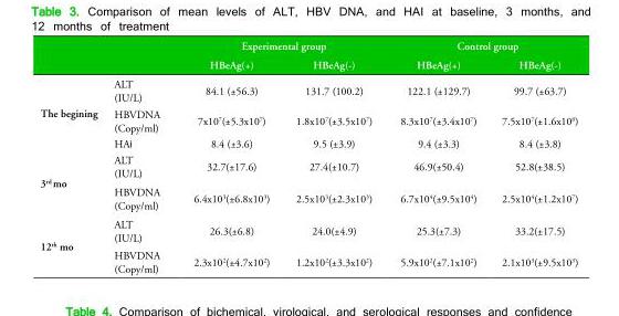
<table><thead><tr><td rowspan="2"></td><td rowspan="2"></td><td colspan="2">Experimental group</td><td colspan="2">Control group</td></tr><tr><td>HBeAg(+)</td><td>HBeAg(-)</td><td>HBeAg(+)</td><td>HBeAg(-)</td></tr></thead><tbody><tr><td rowspan="3">The begining</td><td>ALT (IU/L)</td><td>84.1 (±56.3)</td><td>131.7 (100.2)</td><td>122.1 (±129.7)</td><td>99.7 (±63.7)</td></tr><tr><td>HBVDNA (Copy/ml)</td><td>7x10<sup>7</sup>(±5.3x10<sup>7</sup>)</td><td>1.8x10<sup>7</sup>(±3.5x10<sup>7</sup>)</td><td>8.3x10<sup>7</sup>(±3.4x10<sup>7</sup>)</td><td>7.5x10<sup>7</sup>(±1.6x10<sup>8</sup>)</td></tr><tr><td>HAİ</td><td>8.4 (±3.6)</td><td>9.5 (±3.9)</td><td>9.4 (±3.3)</td><td>8.4 (±3.8)</td></tr><tr><td rowspan="2">3rd mo</td><td>ALT (IU/L)</td><td>32.7(±17.6)</td><td>27.4(±10.7)</td><td>46.9(±50.4)</td><td>52.8(±38.5)</td></tr><tr><td>HBVDNA (Copy/ml)</td><td>6.4x10<sup>3</sup>(±6.8x10<sup>3</sup>)</td><td>2.5x10<sup>3</sup>(±2.3x10<sup>3</sup>)</td><td>6.7x10<sup>4</sup>(±9.5x10<sup>4</sup>)</td><td>2.5x10<sup>4</sup>(±1.2x10<sup>7</sup>)</td></tr><tr><td rowspan="2">12th mo</td><td>ALT (IU/L)</td><td>26.3(±6.8)</td><td>24.0(±4.9)</td><td>25.3(±7.3)</td><td>33.2(±17.5)</td></tr><tr><td>HBVDNA (Copy/ml)</td><td>2.3x10<sup>2</sup>(±4.7x10<sup>2</sup>)</td><td>1.2x10<sup>2</sup>(±3.3x10<sup>2</sup>)</td><td>5.9x10<sup>2</sup>(±7.1x10<sup>2</sup>)</td><td>2.1x10<sup>3</sup>(±9.5x10<sup>3</sup>)</td></tr></tbody></table>